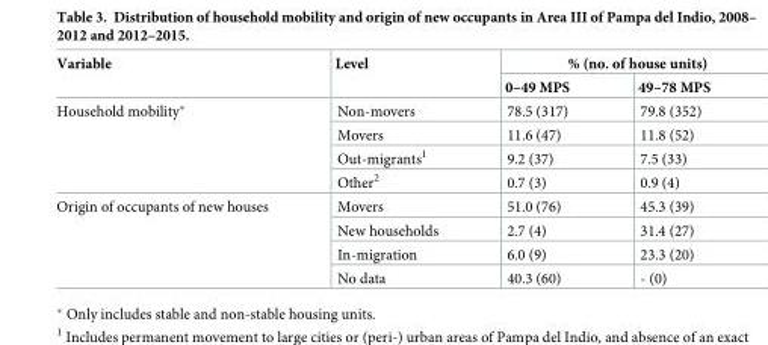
<table><thead><tr><td rowspan="2">Variable</td><td rowspan="2">Level</td><td colspan="2">% (no. of house units)</td></tr><tr><td>0–49 MPS</td><td>49–78 MPS</td></tr></thead><tbody><tr><td rowspan="4">Household mobility*</td><td>Non-movers</td><td>78.5 (317)</td><td>79.8 (352)</td></tr><tr><td>Movers</td><td>11.6 (47)</td><td>11.8 (52)</td></tr><tr><td>Out-migrants<sup>1</sup></td><td>9.2 (37)</td><td>7.5 (33)</td></tr><tr><td>Other<sup>2</sup></td><td>0.7 (3)</td><td>0.9 (4)</td></tr><tr><td rowspan="4">Origin of occupants of new houses</td><td>Movers</td><td>51.0 (76)</td><td>45.3 (39)</td></tr><tr><td>New households</td><td>2.7 (4)</td><td>31.4 (27)</td></tr><tr><td>In-migration</td><td>6.0 (9)</td><td>23.3 (20)</td></tr><tr><td>No data</td><td>40.3 (60)</td><td>- (0)</td></tr></tbody></table>